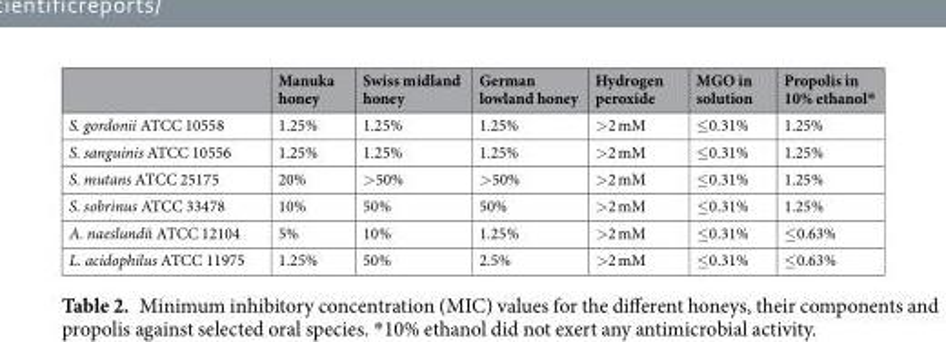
<table><thead><tr><td></td><td>Manuka honey</td><td>Swiss midland honey</td><td>German lowland honey</td><td>Hydrogen peroxide</td><td>MGO in solution</td><td>Propolis in 10% ethanol*</td></tr></thead><tbody><tr><td>S. gordonii ATCC 10558</td><td>1.25%</td><td>1.25%</td><td>1.25%</td><td>&gt;2 mM</td><td>≤0.31%</td><td>1.25%</td></tr><tr><td>S. sanguinis ATCC 10556</td><td>1.25%</td><td>1.25%</td><td>1.25%</td><td>&gt;2 mM</td><td>≤0.31%</td><td>1.25%</td></tr><tr><td>S. mutans ATCC 25175</td><td>20%</td><td>&gt;50%</td><td>&gt;50%</td><td>&gt;2 mM</td><td>≤0.31%</td><td>1.25%</td></tr><tr><td>S. sobrinus ATCC 33478</td><td>10%</td><td>50%</td><td>50%</td><td>&gt;2 mM</td><td>≤0.31%</td><td>1.25%</td></tr><tr><td>A. naeslundii ATCC 12104</td><td>5%</td><td>10%</td><td>1.25%</td><td>&gt;2 mM</td><td>≤0.31%</td><td>≤0.63%</td></tr><tr><td>L. acidophilus ATCC 11975</td><td>1.25%</td><td>50%</td><td>2.5%</td><td>&gt;2 mM</td><td>≤0.31%</td><td>≤0.63%</td></tr></tbody></table>